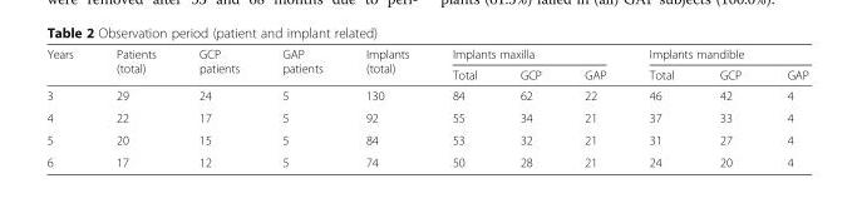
<table><thead><tr><td rowspan="2">Years</td><td rowspan="2">Patients (total)</td><td rowspan="2">GCP patients</td><td rowspan="2">GAP patients</td><td rowspan="2">Implants (total)</td><td colspan="3">Implants maxilla</td><td colspan="3">Implants mandible</td></tr><tr><td>Total</td><td>GCP</td><td>GAP</td><td>Total</td><td>GCP</td><td>GAP</td></tr></thead><tbody><tr><td>3</td><td>29</td><td>24</td><td>5</td><td>130</td><td>84</td><td>62</td><td>22</td><td>46</td><td>42</td><td>4</td></tr><tr><td>4</td><td>22</td><td>17</td><td>5</td><td>92</td><td>55</td><td>34</td><td>21</td><td>37</td><td>33</td><td>4</td></tr><tr><td>5</td><td>20</td><td>15</td><td>5</td><td>84</td><td>53</td><td>32</td><td>21</td><td>31</td><td>27</td><td>4</td></tr><tr><td>6</td><td>17</td><td>12</td><td>5</td><td>74</td><td>50</td><td>28</td><td>21</td><td>24</td><td>20</td><td>4</td></tr></tbody></table>